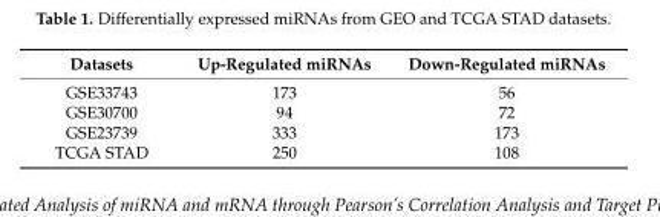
<table><thead><tr><td>Datasets</td><td>Up-Regulated miRNAs</td><td>Down-Regulated miRNAs</td></tr></thead><tbody><tr><td>GSE33743</td><td>173</td><td>56</td></tr><tr><td>GSE30700</td><td>94</td><td>72</td></tr><tr><td>GSE23739</td><td>333</td><td>173</td></tr><tr><td>TCGA STAD</td><td>250</td><td>108</td></tr></tbody></table>